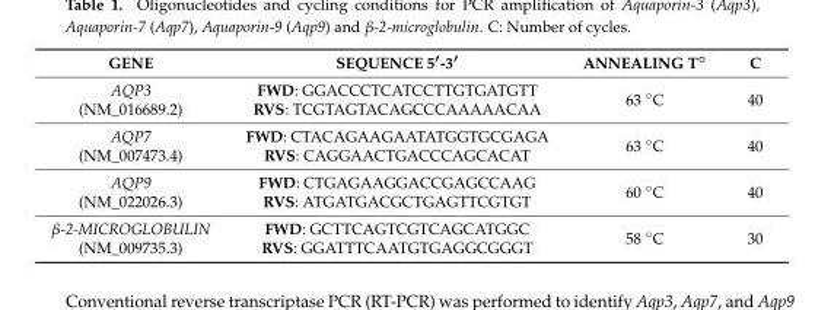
<table><thead><tr><td>GENE</td><td>SEQUENCE 5′-3′</td><td>ANNEALING T◦</td><td>C</td></tr></thead><tbody><tr><td>AQP3 (NM_016689.2)</td><td>FWD: GGACCCTCATCCTTGTGATGTT RVS: TCGTAGTACAGCCCAAAAACAA</td><td>63 ◦C</td><td>40</td></tr><tr><td>AQP7 (NM_007473.4)</td><td>FWD: CTACAGAAGAATATGGTGCGAGA RVS: CAGGAACTGACCCAGCACAT</td><td>63 ◦C</td><td>40</td></tr><tr><td>AQP9 (NM_022026.3)</td><td>FWD: CTGAGAAGGACCGAGCCAAG RVS: ATGATGACGCTGAGTTCGTGT</td><td>60 ◦C</td><td>40</td></tr><tr><td>β-2-MICROGLOBULIN (NM_009735.3)</td><td>FWD: GCTTCAGTCGTCAGCATGGC RVS: GGATTTCAATGTGAGGCGGGT</td><td>58 ◦C</td><td>30</td></tr></tbody></table>